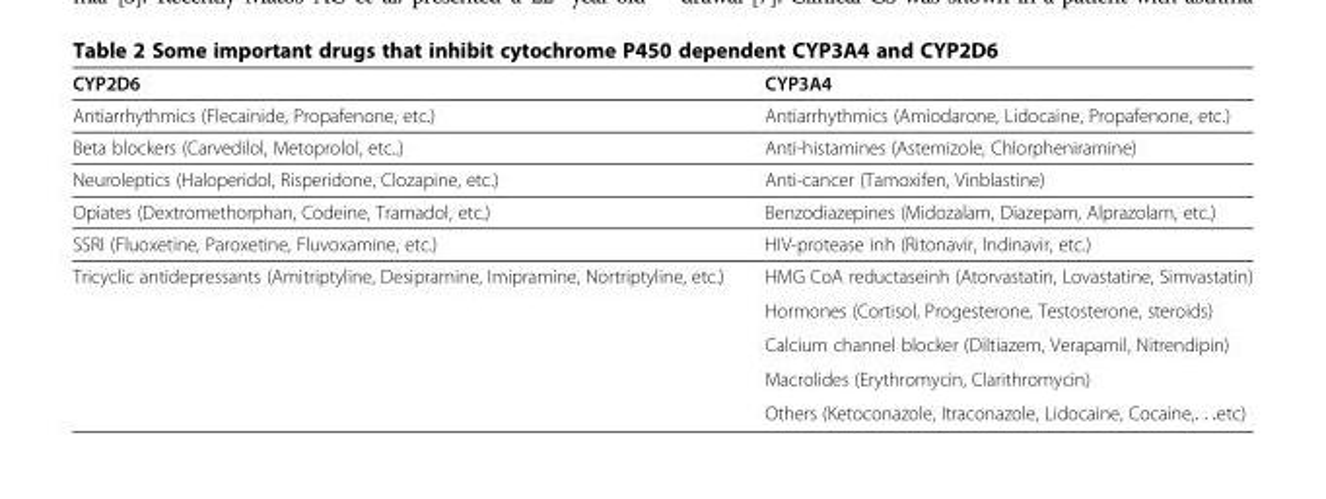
<table><thead><tr><td>CYP2D6</td><td>CYP3A4</td></tr></thead><tbody><tr><td>Antiarrhythmics (Flecainide, Propafenone, etc.)</td><td>Antiarrhythmics (Amiodarone, Lidocaine, Propafenone, etc.)</td></tr><tr><td>Beta blockers (Carvedilol, Metoprolol, etc..)</td><td>Anti-histamines (Astemizole, Chlorpheniramine)</td></tr><tr><td>Neuroleptics (Haloperidol, Risperidone, Clozapine, etc.)</td><td>Anti-cancer (Tamoxifen, Vinblastine)</td></tr><tr><td>Opiates (Dextromethorphan, Codeine, Tramadol, etc.)</td><td>Benzodiazepines (Midozalam, Diazepam, Alprazolam, etc.)</td></tr><tr><td>SSRI (Fluoxetine, Paroxetine, Fluvoxamine, etc.)</td><td>HIV-protease inh (Ritonavir, Indinavir, etc.)</td></tr><tr><td rowspan="5">Tricyclic antidepressants (Amitriptyline, Desipramine, Imipramine, Nortriptyline, etc.)</td><td>HMG CoA reductaseinh (Atorvastatin, Lovastatine, Simvastatin)</td></tr><tr><td>Hormones (Cortisol, Progesterone, Testosterone, steroids)</td></tr><tr><td>Calcium channel blocker (Diltiazem, Verapamil, Nitrendipin)</td></tr><tr><td>Macrolides (Erythromycin, Clarithromycin)</td></tr><tr><td>Others (Ketoconazole, Itraconazole, Lidocaine, Cocaine,. . .etc)</td></tr></tbody></table>